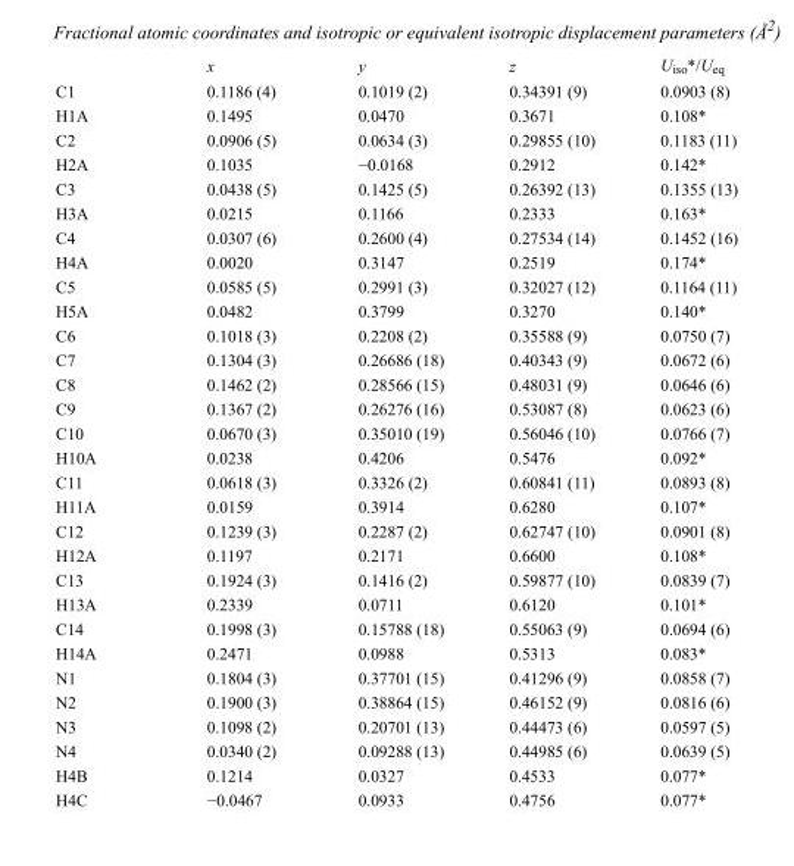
<table><thead><tr><td></td><td>x</td><td>y</td><td>z</td><td>U<sub>iso</sub>*/U<sub>eq</sub></td></tr></thead><tbody><tr><td>C1</td><td>0.1186 (4)</td><td>0.1019 (2)</td><td>0.34391 (9)</td><td>0.0903 (8)</td></tr><tr><td>H1A</td><td>0.1495</td><td>0.0470</td><td>0.3671</td><td>0.108*</td></tr><tr><td>C2</td><td>0.0906 (5)</td><td>0.0634 (3)</td><td>0.29855 (10)</td><td>0.1183 (11)</td></tr><tr><td>H2A</td><td>0.1035</td><td>−0.0168</td><td>0.2912</td><td>0.142*</td></tr><tr><td>C3</td><td>0.0438 (5)</td><td>0.1425 (5)</td><td>0.26392 (13)</td><td>0.1355 (13)</td></tr><tr><td>H3A</td><td>0.0215</td><td>0.1166</td><td>0.2333</td><td>0.163*</td></tr><tr><td>C4</td><td>0.0307 (6)</td><td>0.2600 (4)</td><td>0.27534 (14)</td><td>0.1452 (16)</td></tr><tr><td>H4A</td><td>0.0020</td><td>0.3147</td><td>0.2519</td><td>0.174*</td></tr><tr><td>C5</td><td>0.0585 (5)</td><td>0.2991 (3)</td><td>0.32027 (12)</td><td>0.1164 (11)</td></tr><tr><td>H5A</td><td>0.0482</td><td>0.3799</td><td>0.3270</td><td>0.140*</td></tr><tr><td>C6</td><td>0.1018 (3)</td><td>0.2208 (2)</td><td>0.35588 (9)</td><td>0.0750 (7)</td></tr><tr><td>C7</td><td>0.1304 (3)</td><td>0.26686 (18)</td><td>0.40343 (9)</td><td>0.0672 (6)</td></tr><tr><td>C8</td><td>0.1462 (2)</td><td>0.28566 (15)</td><td>0.48031 (9)</td><td>0.0646 (6)</td></tr><tr><td>C9</td><td>0.1367 (2)</td><td>0.26276 (16)</td><td>0.53087 (8)</td><td>0.0623 (6)</td></tr><tr><td>C10</td><td>0.0670 (3)</td><td>0.35010 (19)</td><td>0.56046 (10)</td><td>0.0766 (7)</td></tr><tr><td>H10A</td><td>0.0238</td><td>0.4206</td><td>0.5476</td><td>0.092*</td></tr><tr><td>C11</td><td>0.0618 (3)</td><td>0.3326 (2)</td><td>0.60841 (11)</td><td>0.0893 (8)</td></tr><tr><td>H11A</td><td>0.0159</td><td>0.3914</td><td>0.6280</td><td>0.107*</td></tr><tr><td>C12</td><td>0.1239 (3)</td><td>0.2287 (2)</td><td>0.62747 (10)</td><td>0.0901 (8)</td></tr><tr><td>H12A</td><td>0.1197</td><td>0.2171</td><td>0.6600</td><td>0.108*</td></tr><tr><td>C13</td><td>0.1924 (3)</td><td>0.1416 (2)</td><td>0.59877 (10)</td><td>0.0839 (7)</td></tr><tr><td>H13A</td><td>0.2339</td><td>0.0711</td><td>0.6120</td><td>0.101*</td></tr><tr><td>C14</td><td>0.1998 (3)</td><td>0.15788 (18)</td><td>0.55063 (9)</td><td>0.0694 (6)</td></tr><tr><td>H14A</td><td>0.2471</td><td>0.0988</td><td>0.5313</td><td>0.083*</td></tr><tr><td>N1</td><td>0.1804 (3)</td><td>0.37701 (15)</td><td>0.41296 (9)</td><td>0.0858 (7)</td></tr><tr><td>N2</td><td>0.1900 (3)</td><td>0.38864 (15)</td><td>0.46152 (9)</td><td>0.0816 (6)</td></tr><tr><td>N3</td><td>0.1098 (2)</td><td>0.20701 (13)</td><td>0.44473 (6)</td><td>0.0597 (5)</td></tr><tr><td>N4</td><td>0.0340 (2)</td><td>0.09288 (13)</td><td>0.44985 (6)</td><td>0.0639 (5)</td></tr><tr><td>H4B</td><td>0.1214</td><td>0.0327</td><td>0.4533</td><td>0.077*</td></tr><tr><td>H4C</td><td>−0.0467</td><td>0.0933</td><td>0.4756</td><td>0.077*</td></tr></tbody></table>